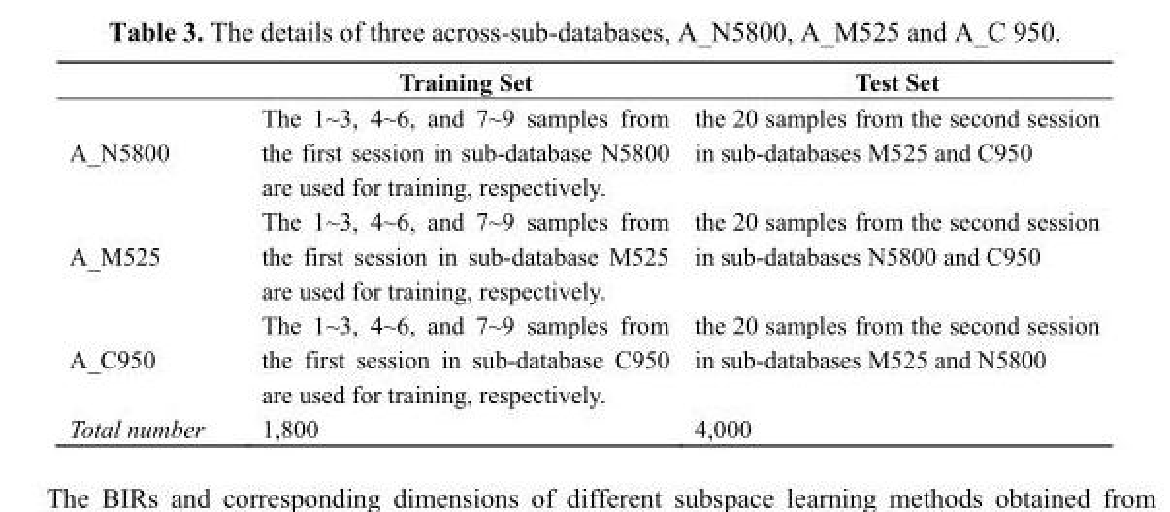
<table><thead><tr><td></td><td>Training Set</td><td>Test Set</td></tr></thead><tbody><tr><td>A_N5800</td><td>The 1~3, 4~6, and 7~9 samples from the first session in sub-database N5800 are used for training, respectively.</td><td>the 20 samples from the second session in sub-databases M525 and C950</td></tr><tr><td>A_M525</td><td>The 1~3, 4~6, and 7~9 samples from the first session in sub-database M525 are used for training, respectively.</td><td>the 20 samples from the second session in sub-databases N5800 and C950</td></tr><tr><td>A_C950</td><td>The 1~3, 4~6, and 7~9 samples from the first session in sub-database C950 are used for training, respectively.</td><td>the 20 samples from the second session in sub-databases M525 and N5800</td></tr><tr><td>Total number</td><td>1,800</td><td>4,000</td></tr></tbody></table>